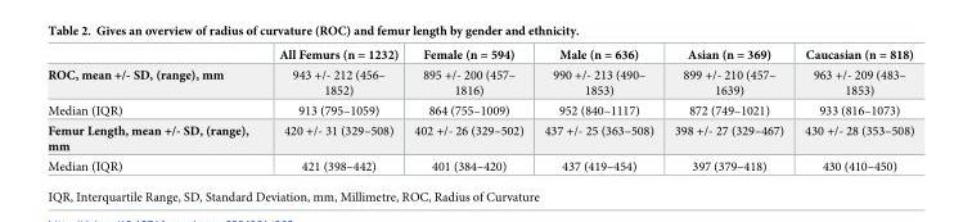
<table><thead><tr><td></td><td>All Femurs (n = 1232)</td><td>Female (n = 594)</td><td>Male (n = 636)</td><td>Asian (n = 369)</td><td>Caucasian (n = 818)</td></tr></thead><tbody><tr><td>ROC, mean +/- SD, (range), mm</td><td>943 +/- 212 (456– 1852)</td><td>895 +/- 200 (457– 1816)</td><td>990 +/- 213 (490– 1853)</td><td>899 +/- 210 (457– 1639)</td><td>963 +/- 209 (483– 1853)</td></tr><tr><td>Median (IQR)</td><td>913 (795–1059)</td><td>864 (755–1009)</td><td>952 (840–1117)</td><td>872 (749–1021)</td><td>933 (816–1073)</td></tr><tr><td>Femur Length, mean +/- SD, (range), mm</td><td>420 +/- 31 (329–508)</td><td>402 +/- 26 (329–502)</td><td>437 +/- 25 (363–508)</td><td>398 +/- 27 (329–467)</td><td>430 +/- 28 (353–508)</td></tr><tr><td>Median (IQR)</td><td>421 (398–442)</td><td>401 (384–420)</td><td>437 (419–454)</td><td>397 (379–418)</td><td>430 (410–450)</td></tr></tbody></table>